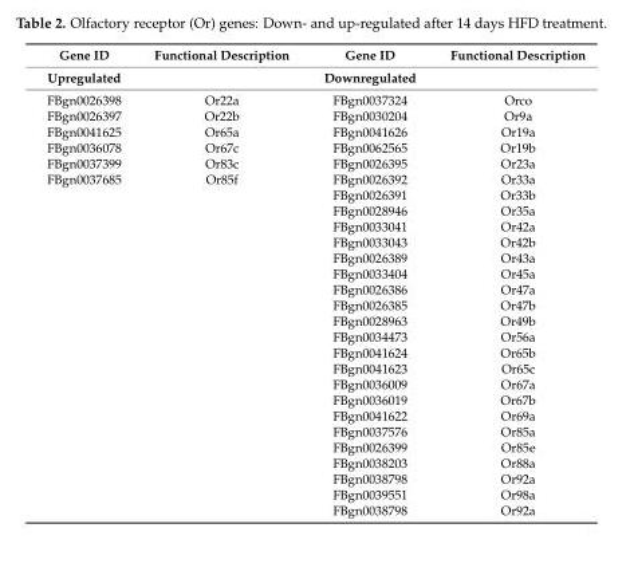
<table><thead><tr><td>Gene ID</td><td>Functional Description</td><td>Gene ID</td><td>Functional Description</td></tr></thead><tbody><tr><td>Upregulated</td><td></td><td>Downregulated</td><td></td></tr><tr><td>FBgn0026398</td><td>Or22a</td><td>FBgn0037324</td><td>Orco</td></tr><tr><td>FBgn0026397</td><td>Or22b</td><td>FBgn0030204</td><td>Or9a</td></tr><tr><td>FBgn0041625</td><td>Or65a</td><td>FBgn0041626</td><td>Or19a</td></tr><tr><td>FBgn0036078</td><td>Or67c</td><td>FBgn0062565</td><td>Or19b</td></tr><tr><td>FBgn0037399</td><td>Or83c</td><td>FBgn0026395</td><td>Or23a</td></tr><tr><td rowspan="22">FBgn0037685</td><td>Or85f</td><td>FBgn0026392</td><td>Or33a</td></tr><tr><td></td><td>FBgn0026391</td><td>Or33b</td></tr><tr><td></td><td>FBgn0028946</td><td>Or35a</td></tr><tr><td></td><td>FBgn0033041</td><td>Or42a</td></tr><tr><td></td><td>FBgn0033043</td><td>Or42b</td></tr><tr><td></td><td>FBgn0026389</td><td>Or43a</td></tr><tr><td></td><td>FBgn0033404</td><td>Or45a</td></tr><tr><td></td><td>FBgn0026386</td><td>Or47a</td></tr><tr><td></td><td>FBgn0026385</td><td>Or47b</td></tr><tr><td></td><td>FBgn0028963</td><td>Or49b</td></tr><tr><td></td><td>FBgn0034473</td><td>Or56a</td></tr><tr><td></td><td>FBgn0041624</td><td>Or65b</td></tr><tr><td></td><td>FBgn0041623</td><td>Or65c</td></tr><tr><td></td><td>FBgn0036009</td><td>Or67a</td></tr><tr><td></td><td>FBgn0036019</td><td>Or67b</td></tr><tr><td></td><td>FBgn0041622</td><td>Or69a</td></tr><tr><td></td><td>FBgn0037576</td><td>Or85a</td></tr><tr><td></td><td>FBgn0026399</td><td>Or85e</td></tr><tr><td></td><td>FBgn0038203</td><td>Or88a</td></tr><tr><td></td><td>FBgn0038798</td><td>Or92a</td></tr><tr><td></td><td>FBgn0039551</td><td>Or98a</td></tr><tr><td></td><td>FBgn0038798</td><td>Or92a</td></tr></tbody></table>